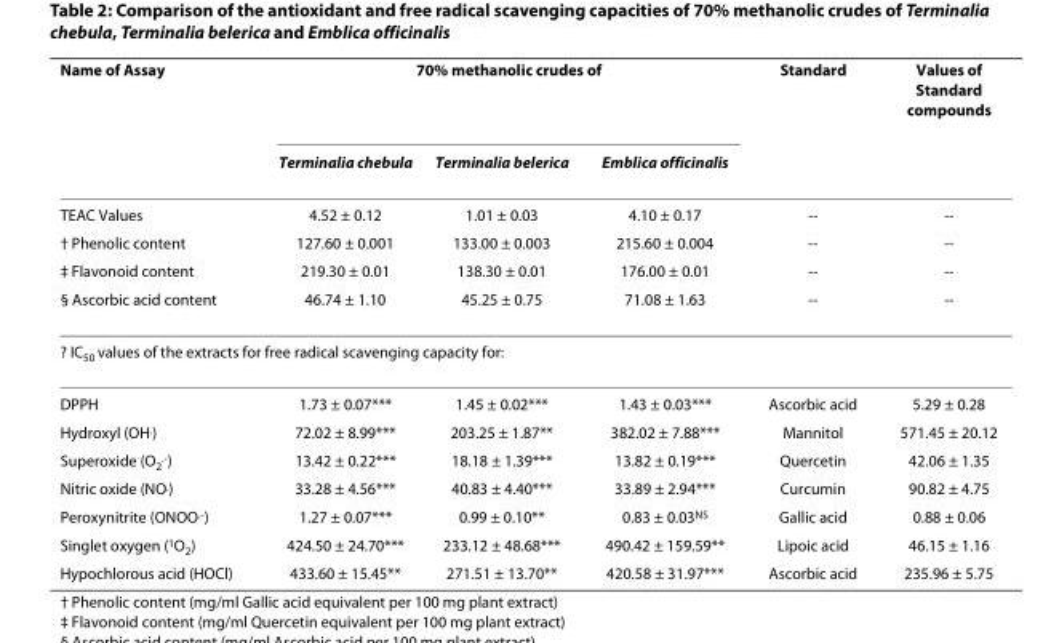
<table><thead><tr><td rowspan="2">Name of Assay</td><td colspan="3">70% methanolic crudes of</td><td rowspan="2">Standard</td><td rowspan="2">Values of Standard compounds</td></tr><tr><td>Terminalia chebula</td><td>Terminalia belerica</td><td>Emblica officinalis</td></tr></thead><tbody><tr><td>TEAC Values</td><td>4.52 ± 0.12</td><td>1.01 ± 0.03</td><td>4.10 ± 0.17</td><td>--</td><td>--</td></tr><tr><td>† Phenolic content</td><td>127.60 ± 0.001</td><td>133.00 ± 0.003</td><td>215.60 ± 0.004</td><td>--</td><td>--</td></tr><tr><td>‡ Flavonoid content</td><td>219.30 ± 0.01</td><td>138.30 ± 0.01</td><td>176.00 ± 0.01</td><td>--</td><td>--</td></tr><tr><td>§ Ascorbic acid content</td><td>46.74 ± 1.10</td><td>45.25 ± 0.75</td><td>71.08 ± 1.63</td><td>--</td><td>--</td></tr><tr><td colspan="6">♣ IC<sub>50</sub> values of the extracts for free radical scavenging capacity for:</td></tr><tr><td>DPPH</td><td>1.73 ± 0.07***</td><td>1.45 ± 0.02***</td><td>1.43 ± 0.03***</td><td>Ascorbic acid</td><td>5.29 ± 0.28</td></tr><tr><td>Hydroxyl (OH<sup>.</sup>)</td><td>72.02 ± 8.99***</td><td>203.25 ± 1.87**</td><td>382.02 ± 7.88***</td><td>Mannitol</td><td>571.45 ± 20.12</td></tr><tr><td>Superoxide (O<sub>2</sub><sup>.-</sup>)</td><td>13.42 ± 0.22***</td><td>18.18 ± 1.39***</td><td>13.82 ± 0.19***</td><td>Quercetin</td><td>42.06 ± 1.35</td></tr><tr><td>Nitric oxide (NO<sup>.</sup>)</td><td>33.28 ± 4.56***</td><td>40.83 ± 4.40***</td><td>33.89 ± 2.94***</td><td>Curcumin</td><td>90.82 ± 4.75</td></tr><tr><td>Peroxynitrite (ONOO<sup>.-</sup>)</td><td>1.27 ± 0.07***</td><td>0.99 ± 0.10**</td><td>0.83 ± 0.03<sup>NS</sup></td><td>Gallic acid</td><td>0.88 ± 0.06</td></tr><tr><td>Singlet oxygen (<sup>1</sup>O<sub>2</sub>)</td><td>424.50 ± 24.70***</td><td>233.12 ± 48.68***</td><td>490.42 ± 159.59**</td><td>Lipoic acid</td><td>46.15 ± 1.16</td></tr><tr><td>Hypochlorous acid (HOCl)</td><td>433.60 ± 15.45**</td><td>271.51 ± 13.70**</td><td>420.58 ± 31.97***</td><td>Ascorbic acid</td><td>235.96 ± 5.75</td></tr></tbody></table>